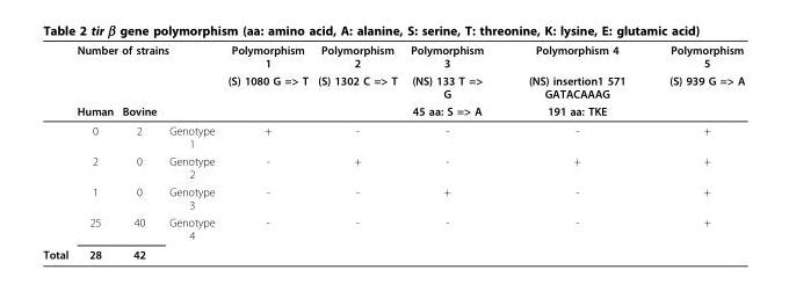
<table><thead><tr><td rowspan="3"></td><td colspan="3">Number of strains</td><td rowspan="3">Polymorphism 1 (S) 1080 G =&gt; T</td><td rowspan="3">Polymorphism 2 (S) 1302 C =&gt; T</td><td rowspan="3">Polymorphism 3 (NS) 133 T =&gt; G 45 aa: S =&gt; A</td><td rowspan="3">Polymorphism 4 (NS) insertion1 571 GATACAAAG 191 aa: TKE</td><td rowspan="3">Polymorphism 5 (S) 939 G =&gt; A</td></tr><tr><td rowspan="2">Human</td><td rowspan="2">Bovine</td><td rowspan="2"></td></tr><tr></tr></thead><tbody><tr><td></td><td>0</td><td>2</td><td>Genotype 1</td><td>+</td><td>-</td><td>-</td><td>-</td><td>+</td></tr><tr><td></td><td>2</td><td>0</td><td>Genotype 2</td><td>-</td><td>+</td><td>-</td><td>+</td><td>+</td></tr><tr><td></td><td>1</td><td>0</td><td>Genotype 3</td><td>-</td><td>-</td><td>+</td><td>-</td><td>+</td></tr><tr><td></td><td>25</td><td>40</td><td>Genotype 4</td><td>-</td><td>-</td><td>-</td><td>-</td><td>+</td></tr><tr><td>Total</td><td>28</td><td>42</td><td></td><td></td><td></td><td></td><td></td><td></td></tr></tbody></table>